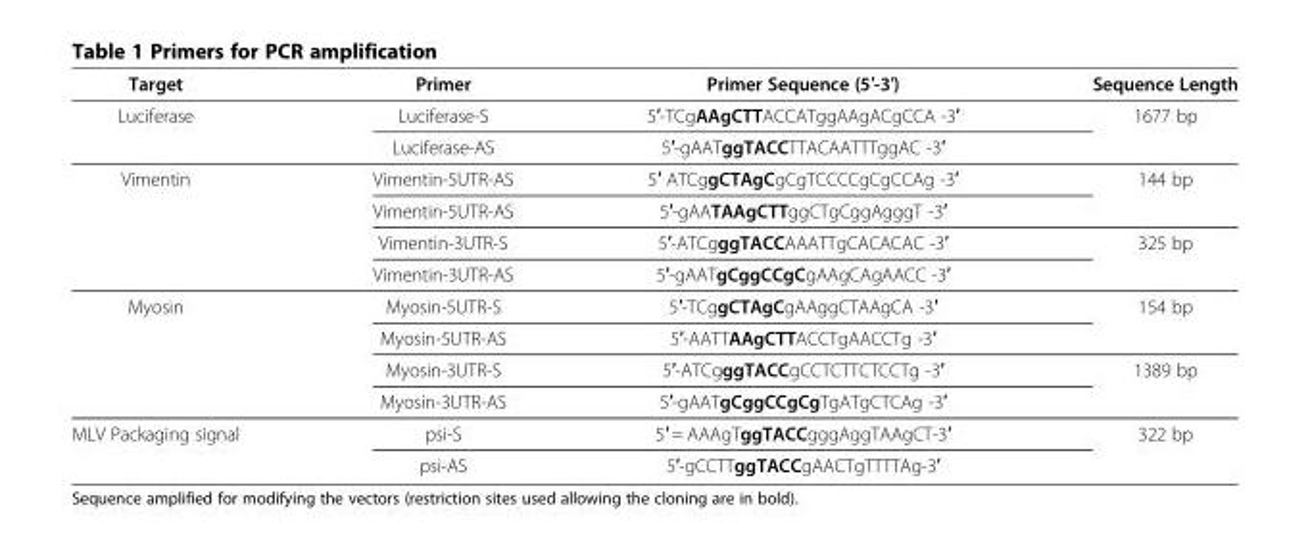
<table><thead><tr><td>Target</td><td>Primer</td><td>Primer Sequence (5′-3′)</td><td>Sequence Length</td></tr></thead><tbody><tr><td rowspan="2">Luciferase</td><td>Luciferase-S</td><td>5′-TCgAAgCTTACCATggAAgACgCCA -3′</td><td rowspan="2">1677 bp</td></tr><tr><td>Luciferase-AS</td><td>5′-gAATggTACCTTACAATTTggAC -3′</td></tr><tr><td rowspan="4">Vimentin</td><td>Vimentin-5UTR-AS</td><td>5′ ATCggCTAgCgCgTCCCCgCgCCAg -3′</td><td rowspan="2">144 bp</td></tr><tr><td>Vimentin-5UTR-AS</td><td>5′-gAATAAgCTTggCTgCggAgggT -3′</td></tr><tr><td>Vimentin-3UTR-S</td><td>5′-ATCgggTACCAAATTgCACACAC -3′</td><td rowspan="2">325 bp</td></tr><tr><td>Vimentin-3UTR-AS</td><td>5′-gAATgCggCCgCgAAgCAgAACC -3′</td></tr><tr><td rowspan="4">Myosin</td><td>Myosin-5UTR-S</td><td>5′-TCggCTAgCgAAggCTAAgCA -3′</td><td rowspan="2">154 bp</td></tr><tr><td>Myosin-5UTR-AS</td><td>5′-AATTAAgCTTACCTgAACCTg -3′</td></tr><tr><td>Myosin-3UTR-S</td><td>5′-ATCgggTACCgCCTCTTCTCCTg -3′</td><td rowspan="2">1389 bp</td></tr><tr><td>Myosin-3UTR-AS</td><td>5′-gAATgCggCCgCgTgATgCTCAg -3′</td></tr><tr><td rowspan="2">MLV Packaging signal</td><td>psi-S</td><td>5′ = AAAgTggTACCgggAggTAAgCT-3′</td><td rowspan="2">322 bp</td></tr><tr><td>psi-AS</td><td>5′-gCCTTggTACCgAACTgTTTTAg-3′</td></tr></tbody></table>